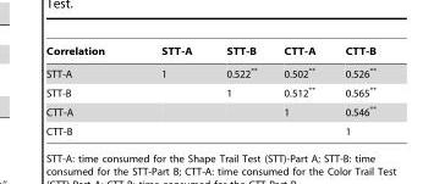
<table><thead><tr><td>Correlation</td><td>STT-A</td><td>STT-B</td><td>CTT-A</td><td>CTT-B</td></tr></thead><tbody><tr><td>STT-A</td><td>1</td><td>0.522**</td><td>0.502**</td><td>0.526**</td></tr><tr><td>STT-B</td><td></td><td>1</td><td>0.512**</td><td>0.565**</td></tr><tr><td>CTT-A</td><td></td><td></td><td>1</td><td>0.546**</td></tr><tr><td>CTT-B</td><td></td><td></td><td></td><td>1</td></tr></tbody></table>